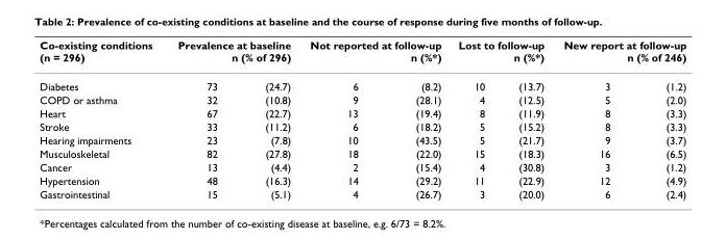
<table><thead><tr><td rowspan="2">Co-existing conditions (n = 296) Diabetes</td><td colspan="2">Prevalence at baseline n (% of 296)</td><td colspan="2">Not reported at follow-up n (%*)</td><td colspan="2">Lost to follow-up n (%*)</td><td colspan="2">New report at follow-up n (% of 246)</td></tr><tr><td>73</td><td>(24.7)</td><td>6</td><td>(8.2)</td><td>10</td><td>(13.7)</td><td>3</td><td>(1.2)</td></tr></thead><tbody><tr><td>COPD or asthma</td><td>32</td><td>(10.8)</td><td>9</td><td>(28.1)</td><td>4</td><td>(12.5)</td><td>5</td><td>(2.0)</td></tr><tr><td>Heart</td><td>67</td><td>(22.7)</td><td>13</td><td>(19.4)</td><td>8</td><td>(11.9)</td><td>8</td><td>(3.3)</td></tr><tr><td>Stroke</td><td>33</td><td>(11.2)</td><td>6</td><td>(18.2)</td><td>5</td><td>(15.2)</td><td>8</td><td>(3.3)</td></tr><tr><td>Hearing impairments</td><td>23</td><td>(7.8)</td><td>10</td><td>(43.5)</td><td>5</td><td>(21.7)</td><td>9</td><td>(3.7)</td></tr><tr><td>Musculoskeletal</td><td>82</td><td>(27.8)</td><td>18</td><td>(22.0)</td><td>15</td><td>(18.3)</td><td>16</td><td>(6.5)</td></tr><tr><td>Cancer</td><td>13</td><td>(4.4)</td><td>2</td><td>(15.4)</td><td>4</td><td>(30.8)</td><td>3</td><td>(1.2)</td></tr><tr><td>Hypertension</td><td>48</td><td>(16.3)</td><td>14</td><td>(29.2)</td><td>11</td><td>(22.9)</td><td>12</td><td>(4.9)</td></tr><tr><td>Gastrointestinal</td><td>15</td><td>(5.1)</td><td>4</td><td>(26.7)</td><td>3</td><td>(20.0)</td><td>6</td><td>(2.4)</td></tr></tbody></table>